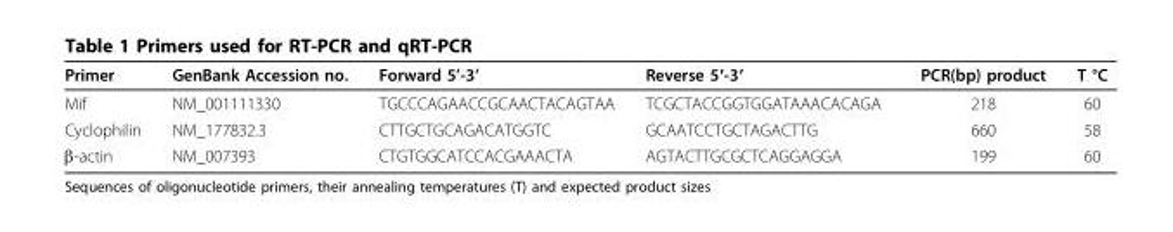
<table><thead><tr><td>Primer</td><td>GenBank Accession no.</td><td>Forward 5’-3’</td><td>Reverse 5′-3′</td><td>PCR(bp) product</td><td>T °C</td></tr></thead><tbody><tr><td>Mif</td><td>NM_001111330</td><td>TGCCCAGAACCGCAACTACAGTAA</td><td>TCGCTACCGGTGGATAAACACAGA</td><td>218</td><td>60</td></tr><tr><td>Cyclophilin</td><td>NM_177832.3</td><td>CTTGCTGCAGACATGGTC</td><td>GCAATCCTGCTAGACTTG</td><td>660</td><td>58</td></tr><tr><td>β-actin</td><td>NM_007393</td><td>CTGTGGCATCCACGAAACTA</td><td>AGTACTTGCGCTCAGGAGGA</td><td>199</td><td>60</td></tr></tbody></table>